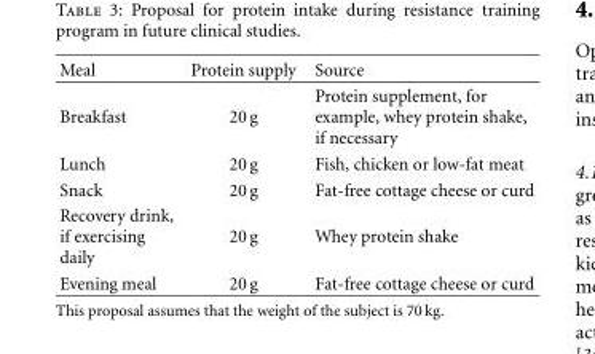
<table><thead><tr><td>Meal</td><td>Protein supply</td><td>Source</td></tr></thead><tbody><tr><td>Breakfast</td><td>20 g</td><td>Protein supplement, for example, whey protein shake, if necessary</td></tr><tr><td>Lunch</td><td>20 g</td><td>Fish, chicken or low-fat meat</td></tr><tr><td>Snack</td><td>20 g</td><td>Fat-free cottage cheese or curd</td></tr><tr><td>Recovery drink, if exercising daily</td><td>20 g</td><td>Whey protein shake</td></tr><tr><td>Evening meal</td><td>20 g</td><td>Fat-free cottage cheese or curd</td></tr></tbody></table>